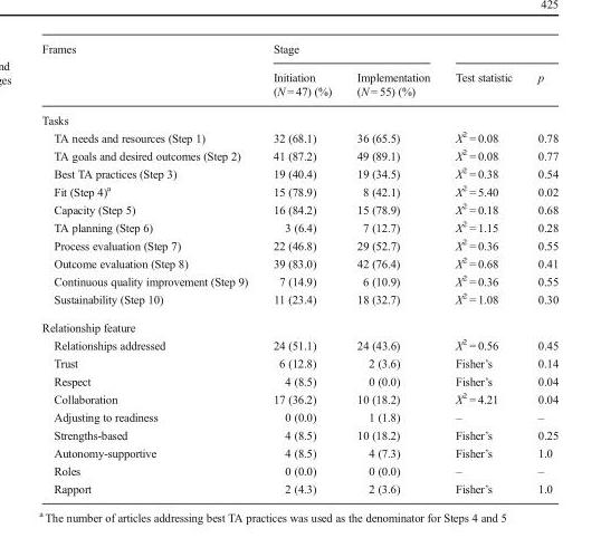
<table><thead><tr><td rowspan="3">Frames</td><td colspan="2">Stage</td><td rowspan="3">Test statistic</td><td rowspan="3">p</td></tr><tr><td rowspan="2">Initiation (N = 47) (%)</td><td rowspan="2">Implementation (N = 55) (%)</td></tr><tr></tr></thead><tbody><tr><td colspan="5">Tasks</td></tr><tr><td>TA needs and resources (Step 1)</td><td>32 (68.1)</td><td>36 (65.5)</td><td>X<sup>2</sup> = 0.08</td><td>0.78</td></tr><tr><td>TA goals and desired outcomes (Step 2)</td><td>41 (87.2)</td><td>49 (89.1)</td><td>X<sup>2</sup> = 0.08</td><td>0.77</td></tr><tr><td>Best TA practices (Step 3)</td><td>19 (40.4)</td><td>19 (34.5)</td><td>X<sup>2</sup> = 0.38</td><td>0.54</td></tr><tr><td>Fit (Step 4)<sup>a</sup></td><td>15 (78.9)</td><td>8 (42.1)</td><td>X<sup>2</sup> = 5.40</td><td>0.02</td></tr><tr><td>Capacity (Step 5)</td><td>16 (84.2)</td><td>15 (78.9)</td><td>X<sup>2</sup> = 0.18</td><td>0.68</td></tr><tr><td>TA planning (Step 6)</td><td>3 (6.4)</td><td>7 (12.7)</td><td>X<sup>2</sup> = 1.15</td><td>0.28</td></tr><tr><td>Process evaluation (Step 7)</td><td>22 (46.8)</td><td>29 (52.7)</td><td>X<sup>2</sup> = 0.36</td><td>0.55</td></tr><tr><td>Outcome evaluation (Step 8)</td><td>39 (83.0)</td><td>42 (76.4)</td><td>X<sup>2</sup> = 0.68</td><td>0.41</td></tr><tr><td>Continuous quality improvement (Step 9)</td><td>7 (14.9)</td><td>6 (10.9)</td><td>X<sup>2</sup> = 0.36</td><td>0.55</td></tr><tr><td>Sustainability (Step 10)</td><td>11 (23.4)</td><td>18 (32.7)</td><td>X<sup>2</sup> = 1.08</td><td>0.30</td></tr><tr><td colspan="5">Relationship feature</td></tr><tr><td>Relationships addressed</td><td>24 (51.1)</td><td>24 (43.6)</td><td>X<sup>2</sup> = 0.56</td><td>0.45</td></tr><tr><td>Trust</td><td>6 (12.8)</td><td>2 (3.6)</td><td>Fisher’s</td><td>0.14</td></tr><tr><td>Respect</td><td>4 (8.5)</td><td>0 (0.0)</td><td>Fisher’s</td><td>0.04</td></tr><tr><td>Collaboration</td><td>17 (36.2)</td><td>10 (18.2)</td><td>X<sup>2</sup> = 4.21</td><td>0.04</td></tr><tr><td>Adjusting to readiness</td><td>0 (0.0)</td><td>1 (1.8)</td><td>–</td><td>–</td></tr><tr><td>Strengths-based</td><td>4 (8.5)</td><td>10 (18.2)</td><td>Fisher’s</td><td>0.25</td></tr><tr><td>Autonomy-supportive</td><td>4 (8.5)</td><td>4 (7.3)</td><td>Fisher’s</td><td>1.0</td></tr><tr><td>Roles</td><td>0 (0.0)</td><td>0 (0.0)</td><td>–</td><td>–</td></tr><tr><td>Rapport</td><td>2 (4.3)</td><td>2 (3.6)</td><td>Fisher’s</td><td>1.0</td></tr></tbody></table>